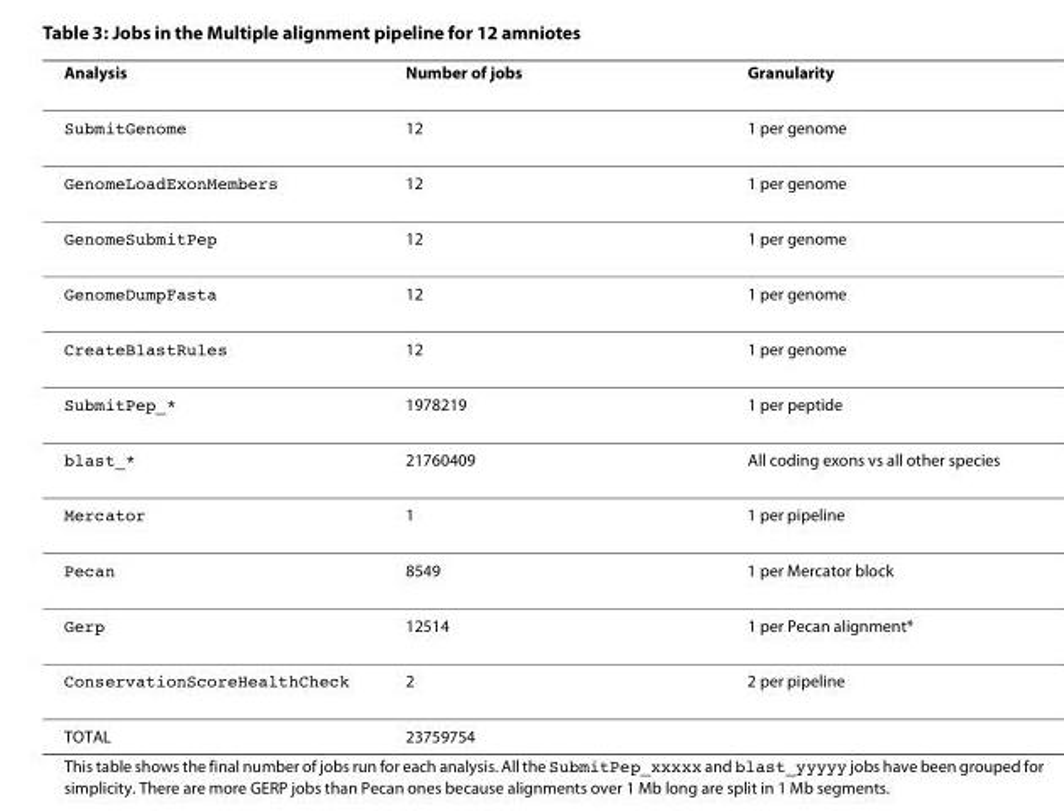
<table><thead><tr><td>Analysis</td><td>Number of jobs</td><td>Granularity</td></tr></thead><tbody><tr><td>SubmitGenome</td><td>12</td><td>1 per genome</td></tr><tr><td>GenomeLoadExonMembers</td><td>12</td><td>1 per genome</td></tr><tr><td>GenomeSubmitPep</td><td>12</td><td>1 per genome</td></tr><tr><td>GenomeDumpFasta</td><td>12</td><td>1 per genome</td></tr><tr><td>CreateBlastRules</td><td>12</td><td>1 per genome</td></tr><tr><td>SubmitPep_*</td><td>1978219</td><td>1 per peptide</td></tr><tr><td>blast_*</td><td>21760409</td><td>All coding exons vs all other species</td></tr><tr><td>Mercator</td><td>1</td><td>1 per pipeline</td></tr><tr><td>Pecan</td><td>8549</td><td>1 per Mercator block</td></tr><tr><td>Gerp</td><td>12514</td><td>1 per Pecan alignment*</td></tr><tr><td>ConservationScoreHealthCheck</td><td>2</td><td>2 per pipeline</td></tr><tr><td>TOTAL</td><td>23759754</td><td></td></tr></tbody></table>